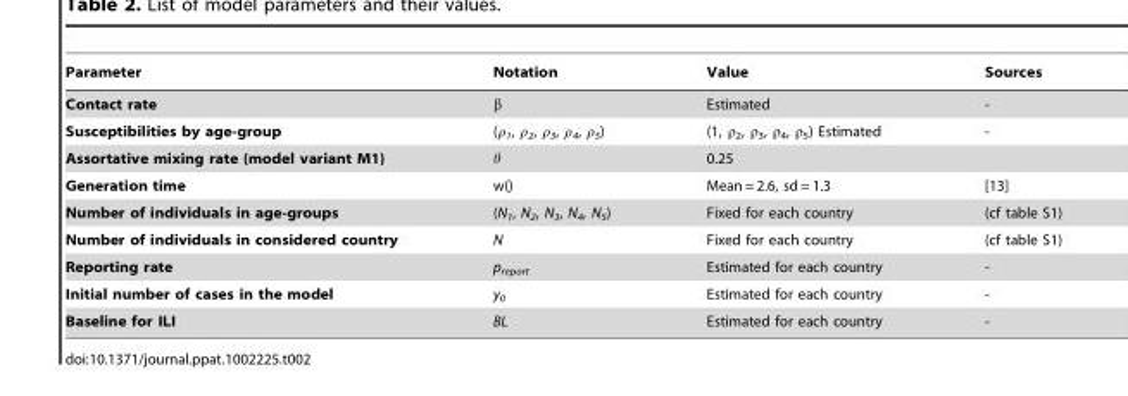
<table><thead><tr><td>Parameter</td><td>Notation</td><td>Value</td><td>Sources</td></tr></thead><tbody><tr><td>Contact rate</td><td>β</td><td>Estimated</td><td>-</td></tr><tr><td>Susceptibilities by age-group</td><td>(ρ<sub>1</sub>, ρ<sub>2</sub>, ρ<sub>3</sub>, ρ<sub>4</sub>, ρ<sub>5</sub>)</td><td>(1, ρ<sub>2</sub>, ρ<sub>3</sub>, ρ<sub>4</sub>, ρ<sub>5</sub>) Estimated</td><td>-</td></tr><tr><td>Assortative mixing rate (model variant M1)</td><td>θ</td><td>0.25</td><td></td></tr><tr><td>Generation time</td><td>w()</td><td>Mean = 2.6, sd = 1.3</td><td>[13]</td></tr><tr><td>Number of individuals in age-groups</td><td>(N<sub>1</sub>, N<sub>2</sub>, N<sub>3</sub>, N<sub>4</sub>, N<sub>5</sub>)</td><td>Fixed for each country</td><td>(cf table S1)</td></tr><tr><td>Number of individuals in considered country</td><td>N</td><td>Fixed for each country</td><td>(cf table S1)</td></tr><tr><td>Reporting rate</td><td>p<sub>report</sub></td><td>Estimated for each country</td><td>-</td></tr><tr><td>Initial number of cases in the model</td><td>y<sub>0</sub></td><td>Estimated for each country</td><td>-</td></tr><tr><td>Baseline for ILI</td><td>BL</td><td>Estimated for each country</td><td>-</td></tr></tbody></table>